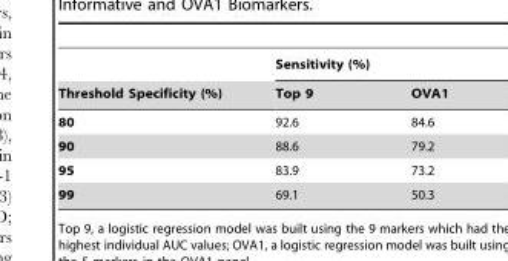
<table><thead><tr><td rowspan="2">Threshold Specificity (%)</td><td colspan="2">Sensitivity (%)</td></tr><tr><td>Top 9</td><td>OVA1</td></tr></thead><tbody><tr><td>80</td><td>92.6</td><td>84.6</td></tr><tr><td>90</td><td>88.6</td><td>79.2</td></tr><tr><td>95</td><td>83.9</td><td>73.2</td></tr><tr><td>99</td><td>69.1</td><td>50.3</td></tr></tbody></table>